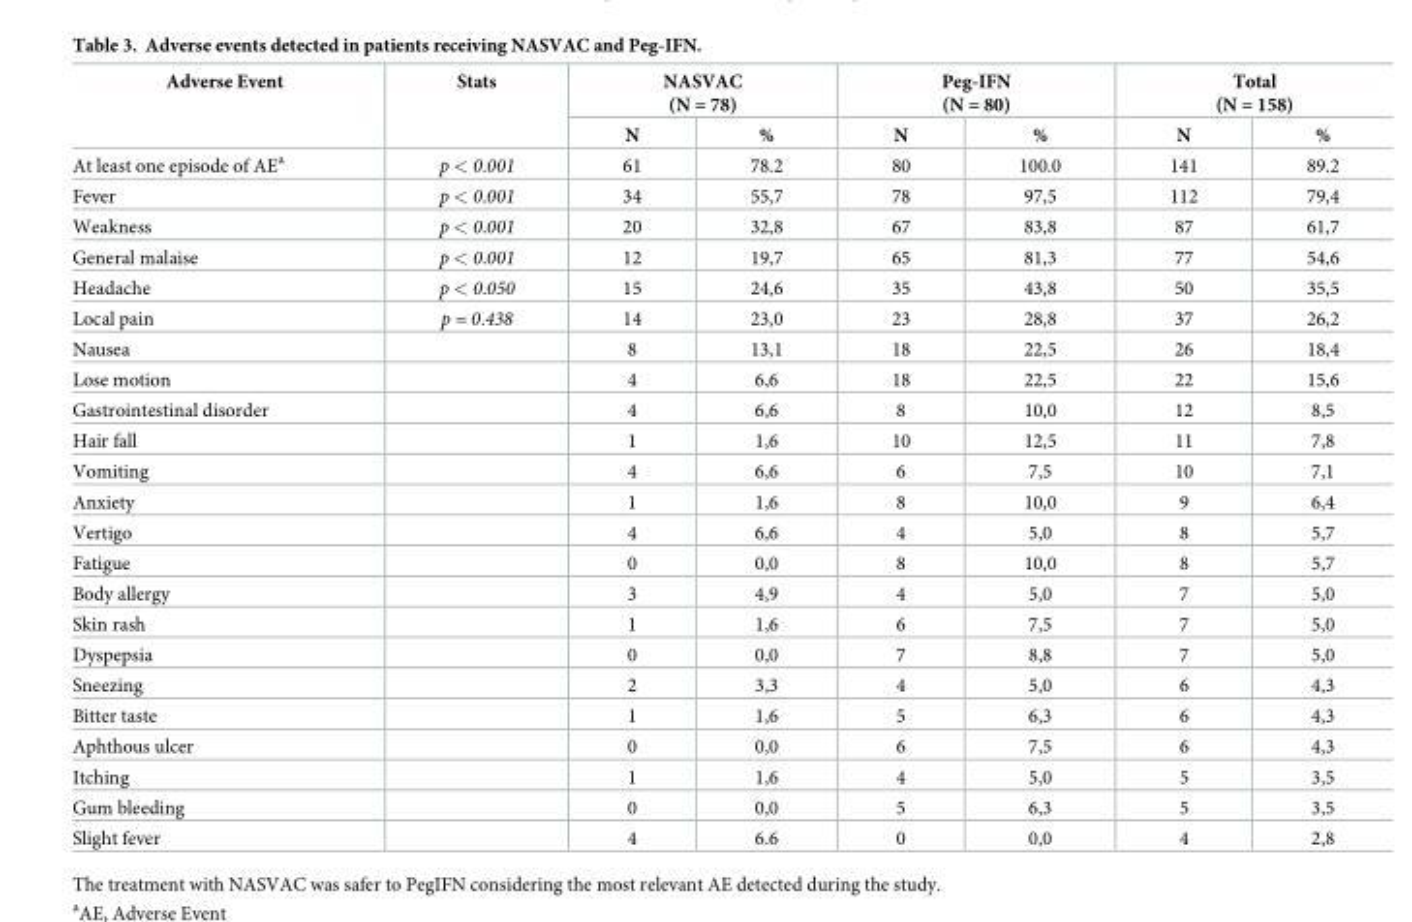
<table><thead><tr><td rowspan="2">Adverse Event</td><td rowspan="2">Stats</td><td colspan="2">NASVAC (N = 78)</td><td colspan="2">Peg-IFN (N = 80)</td><td colspan="2">Total (N = 158)</td></tr><tr><td>N</td><td>%</td><td>N</td><td>%</td><td>N</td><td>%</td></tr></thead><tbody><tr><td>At least one episode of AE<sup>a</sup></td><td>p &lt; 0.001</td><td>61</td><td>78.2</td><td>80</td><td>100.0</td><td>141</td><td>89.2</td></tr><tr><td>Fever</td><td>p &lt; 0.001</td><td>34</td><td>55,7</td><td>78</td><td>97,5</td><td>112</td><td>79,4</td></tr><tr><td>Weakness</td><td>p &lt; 0.001</td><td>20</td><td>32,8</td><td>67</td><td>83,8</td><td>87</td><td>61,7</td></tr><tr><td>General malaise</td><td>p &lt; 0.001</td><td>12</td><td>19,7</td><td>65</td><td>81,3</td><td>77</td><td>54,6</td></tr><tr><td>Headache</td><td>p &lt; 0.050</td><td>15</td><td>24,6</td><td>35</td><td>43,8</td><td>50</td><td>35,5</td></tr><tr><td>Local pain</td><td>p = 0.438</td><td>14</td><td>23,0</td><td>23</td><td>28,8</td><td>37</td><td>26,2</td></tr><tr><td>Nausea</td><td></td><td>8</td><td>13,1</td><td>18</td><td>22,5</td><td>26</td><td>18,4</td></tr><tr><td>Lose motion</td><td></td><td>4</td><td>6,6</td><td>18</td><td>22,5</td><td>22</td><td>15,6</td></tr><tr><td>Gastrointestinal disorder</td><td></td><td>4</td><td>6,6</td><td>8</td><td>10,0</td><td>12</td><td>8,5</td></tr><tr><td>Hair fall</td><td></td><td>1</td><td>1,6</td><td>10</td><td>12,5</td><td>11</td><td>7,8</td></tr><tr><td>Vomiting</td><td></td><td>4</td><td>6,6</td><td>6</td><td>7,5</td><td>10</td><td>7,1</td></tr><tr><td>Anxiety</td><td></td><td>1</td><td>1,6</td><td>8</td><td>10,0</td><td>9</td><td>6,4</td></tr><tr><td>Vertigo</td><td></td><td>4</td><td>6,6</td><td>4</td><td>5,0</td><td>8</td><td>5,7</td></tr><tr><td>Fatigue</td><td></td><td>0</td><td>0,0</td><td>8</td><td>10,0</td><td>8</td><td>5,7</td></tr><tr><td>Body allergy</td><td></td><td>3</td><td>4,9</td><td>4</td><td>5,0</td><td>7</td><td>5,0</td></tr><tr><td>Skin rash</td><td></td><td>1</td><td>1,6</td><td>6</td><td>7,5</td><td>7</td><td>5,0</td></tr><tr><td>Dyspepsia</td><td></td><td>0</td><td>0,0</td><td>7</td><td>8,8</td><td>7</td><td>5,0</td></tr><tr><td>Sneezing</td><td></td><td>2</td><td>3,3</td><td>4</td><td>5,0</td><td>6</td><td>4,3</td></tr><tr><td>Bitter taste</td><td></td><td>1</td><td>1,6</td><td>5</td><td>6,3</td><td>6</td><td>4,3</td></tr><tr><td>Aphthous ulcer</td><td></td><td>0</td><td>0,0</td><td>6</td><td>7,5</td><td>6</td><td>4,3</td></tr><tr><td>Itching</td><td></td><td>1</td><td>1,6</td><td>4</td><td>5,0</td><td>5</td><td>3,5</td></tr><tr><td>Gum bleeding</td><td></td><td>0</td><td>0,0</td><td>5</td><td>6,3</td><td>5</td><td>3,5</td></tr><tr><td>Slight fever</td><td></td><td>4</td><td>6.6</td><td>0</td><td>0,0</td><td>4</td><td>2,8</td></tr></tbody></table>